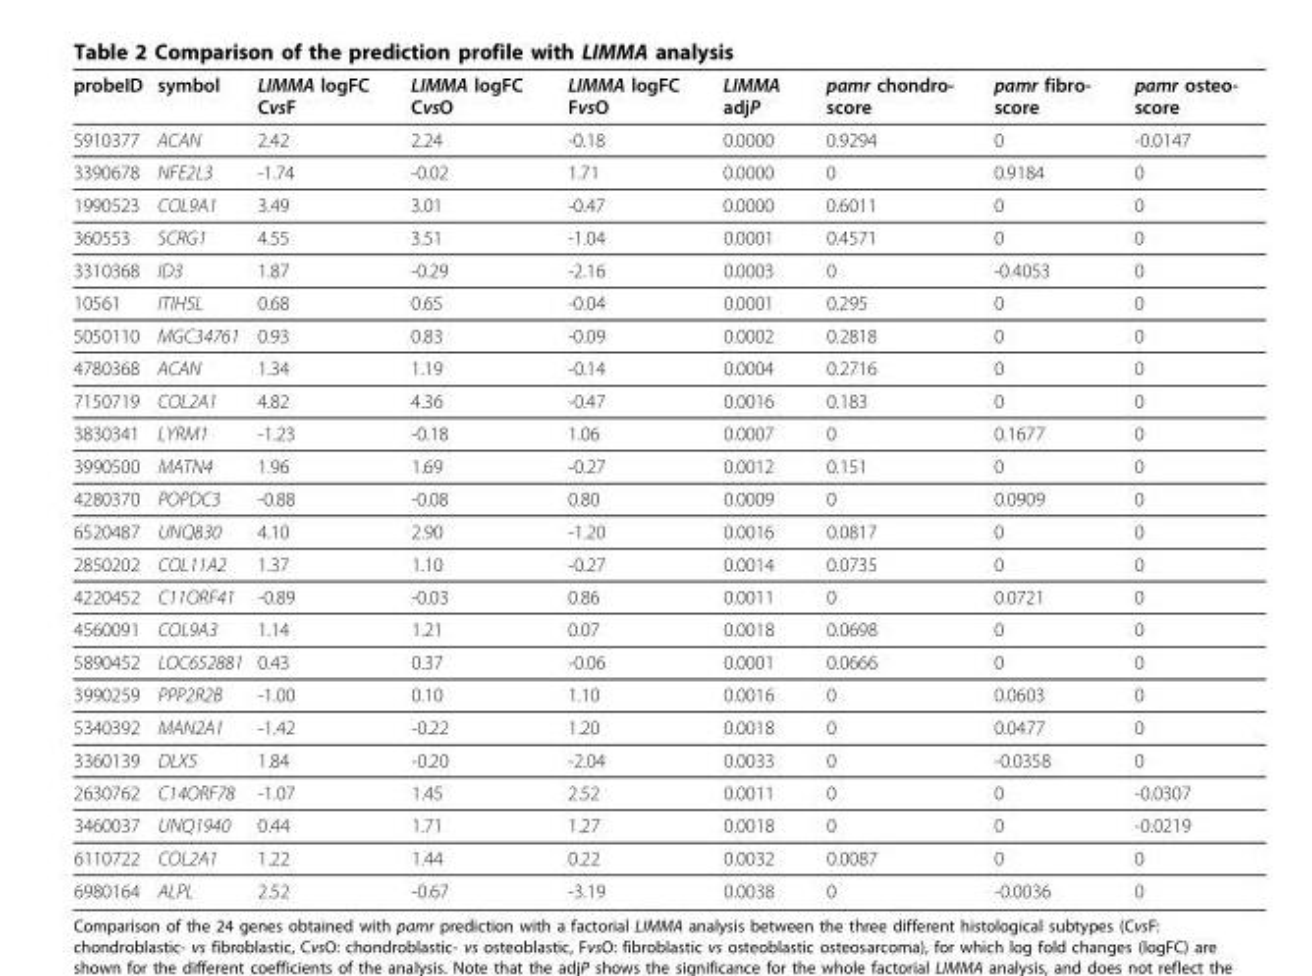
<table><thead><tr><td>probeID</td><td>symbol</td><td>LIMMA logFC CvsF</td><td>LIMMA logFC CvsO</td><td>LIMMA logFC FvsO</td><td>LIMMA adjP</td><td>pamr chondro- score</td><td>pamr fibro- score</td><td>pamr osteo- score</td></tr></thead><tbody><tr><td>5910377</td><td>ACAN</td><td>2.42</td><td>2.24</td><td>-0.18</td><td>0.0000</td><td>0.9294</td><td>0</td><td>-0.0147</td></tr><tr><td>3390678</td><td>NFE2L3</td><td>-1.74</td><td>-0.02</td><td>1.71</td><td>0.0000</td><td>0</td><td>0.9184</td><td>0</td></tr><tr><td>1990523</td><td>COL9A1</td><td>3.49</td><td>3.01</td><td>-0.47</td><td>0.0000</td><td>0.6011</td><td>0</td><td>0</td></tr><tr><td>360553</td><td>SCRG1</td><td>4.55</td><td>3.51</td><td>-1.04</td><td>0.0001</td><td>0.4571</td><td>0</td><td>0</td></tr><tr><td>3310368</td><td>ID3</td><td>1.87</td><td>-0.29</td><td>-2.16</td><td>0.0003</td><td>0</td><td>-0.4053</td><td>0</td></tr><tr><td>10561</td><td>ITIH5L</td><td>0.68</td><td>0.65</td><td>-0.04</td><td>0.0001</td><td>0.295</td><td>0</td><td>0</td></tr><tr><td>5050110</td><td>MGC34761</td><td>0.93</td><td>0.83</td><td>-0.09</td><td>0.0002</td><td>0.2818</td><td>0</td><td>0</td></tr><tr><td>4780368</td><td>ACAN</td><td>1.34</td><td>1.19</td><td>-0.14</td><td>0.0004</td><td>0.2716</td><td>0</td><td>0</td></tr><tr><td>7150719</td><td>COL2A1</td><td>4.82</td><td>4.36</td><td>-0.47</td><td>0.0016</td><td>0.183</td><td>0</td><td>0</td></tr><tr><td>3830341</td><td>LYRM1</td><td>-1.23</td><td>-0.18</td><td>1.06</td><td>0.0007</td><td>0</td><td>0.1677</td><td>0</td></tr><tr><td>3990500</td><td>MATN4</td><td>1.96</td><td>1.69</td><td>-0.27</td><td>0.0012</td><td>0.151</td><td>0</td><td>0</td></tr><tr><td>4280370</td><td>POPDC3</td><td>-0.88</td><td>-0.08</td><td>0.80</td><td>0.0009</td><td>0</td><td>0.0909</td><td>0</td></tr><tr><td>6520487</td><td>UNQ830</td><td>4.10</td><td>2.90</td><td>-1.20</td><td>0.0016</td><td>0.0817</td><td>0</td><td>0</td></tr><tr><td>2850202</td><td>COL11A2</td><td>1.37</td><td>1.10</td><td>-0.27</td><td>0.0014</td><td>0.0735</td><td>0</td><td>0</td></tr><tr><td>4220452</td><td>C11ORF41</td><td>-0.89</td><td>-0.03</td><td>0.86</td><td>0.0011</td><td>0</td><td>0.0721</td><td>0</td></tr><tr><td>4560091</td><td>COL9A3</td><td>1.14</td><td>1.21</td><td>0.07</td><td>0.0018</td><td>0.0698</td><td>0</td><td>0</td></tr><tr><td>5890452</td><td>LOC652881</td><td>0.43</td><td>0.37</td><td>-0.06</td><td>0.0001</td><td>0.0666</td><td>0</td><td>0</td></tr><tr><td>3990259</td><td>PPP2R2B</td><td>-1.00</td><td>0.10</td><td>1.10</td><td>0.0016</td><td>0</td><td>0.0603</td><td>0</td></tr><tr><td>5340392</td><td>MAN2A1</td><td>-1.42</td><td>-0.22</td><td>1.20</td><td>0.0018</td><td>0</td><td>0.0477</td><td>0</td></tr><tr><td>3360139</td><td>DLX5</td><td>1.84</td><td>-0.20</td><td>-2.04</td><td>0.0033</td><td>0</td><td>-0.0358</td><td>0</td></tr><tr><td>2630762</td><td>C14ORF78</td><td>-1.07</td><td>1.45</td><td>2.52</td><td>0.0011</td><td>0</td><td>0</td><td>-0.0307</td></tr><tr><td>3460037</td><td>UNQ1940</td><td>0.44</td><td>1.71</td><td>1.27</td><td>0.0018</td><td>0</td><td>0</td><td>-0.0219</td></tr><tr><td>6110722</td><td>COL2A1</td><td>1.22</td><td>1.44</td><td>0.22</td><td>0.0032</td><td>0.0087</td><td>0</td><td>0</td></tr><tr><td>6980164</td><td>ALPL</td><td>2.52</td><td>-0.67</td><td>-3.19</td><td>0.0038</td><td>0</td><td>-0.0036</td><td>0</td></tr></tbody></table>